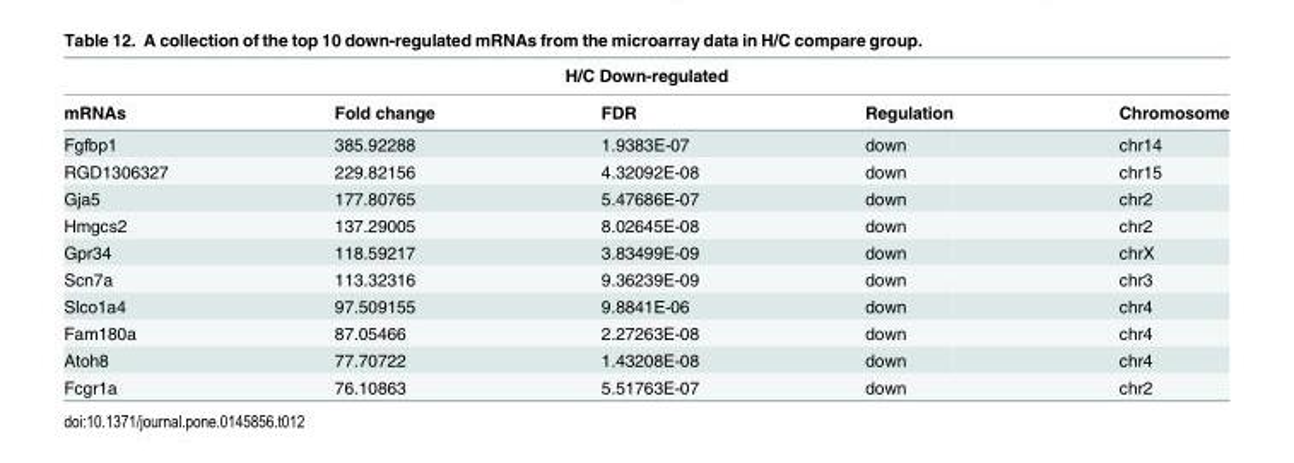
<table><thead><tr><td colspan="5">H/C Down-regulated</td></tr><tr><td>mRNAs</td><td>Fold change</td><td>FDR</td><td>Regulation</td><td>Chromosome</td></tr></thead><tbody><tr><td>Fgfbp1</td><td>385.92288</td><td>1.9383E-07</td><td>down</td><td>chr14</td></tr><tr><td>RGD1306327</td><td>229.82156</td><td>4.32092E-08</td><td>down</td><td>chr15</td></tr><tr><td>Gja5</td><td>177.80765</td><td>5.47686E-07</td><td>down</td><td>chr2</td></tr><tr><td>Hmgcs2</td><td>137.29005</td><td>8.02645E-08</td><td>down</td><td>chr2</td></tr><tr><td>Gpr34</td><td>118.59217</td><td>3.83499E-09</td><td>down</td><td>chrX</td></tr><tr><td>Scn7a</td><td>113.32316</td><td>9.36239E-09</td><td>down</td><td>chr3</td></tr><tr><td>Slco1a4</td><td>97.509155</td><td>9.8841E-06</td><td>down</td><td>chr4</td></tr><tr><td>Fam180a</td><td>87.05466</td><td>2.27263E-08</td><td>down</td><td>chr4</td></tr><tr><td>Atoh8</td><td>77.70722</td><td>1.43208E-08</td><td>down</td><td>chr4</td></tr><tr><td>Fcgr1a</td><td>76.10863</td><td>5.51763E-07</td><td>down</td><td>chr2</td></tr></tbody></table>